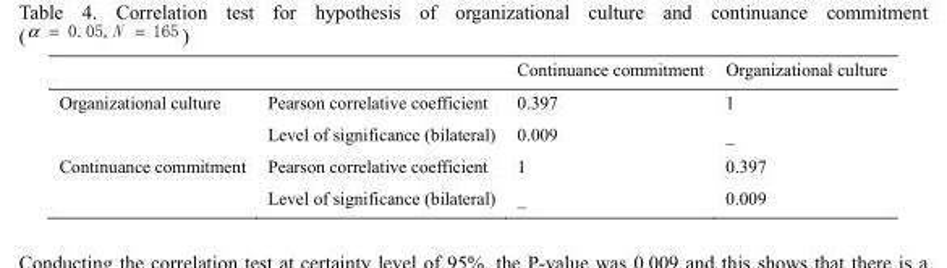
<table><thead><tr><td></td><td></td><td>Continuance commitment</td><td>Organizational culture</td></tr></thead><tbody><tr><td rowspan="2">Organizational culture</td><td>Pearson correlative coefficient</td><td>0.397</td><td>1</td></tr><tr><td>Level of significance (bilateral)</td><td>0.009</td><td>_</td></tr><tr><td rowspan="2">Continuance commitment</td><td>Pearson correlative coefficient</td><td>1</td><td>0.397</td></tr><tr><td>Level of significance (bilateral)</td><td>_</td><td>0.009</td></tr></tbody></table>